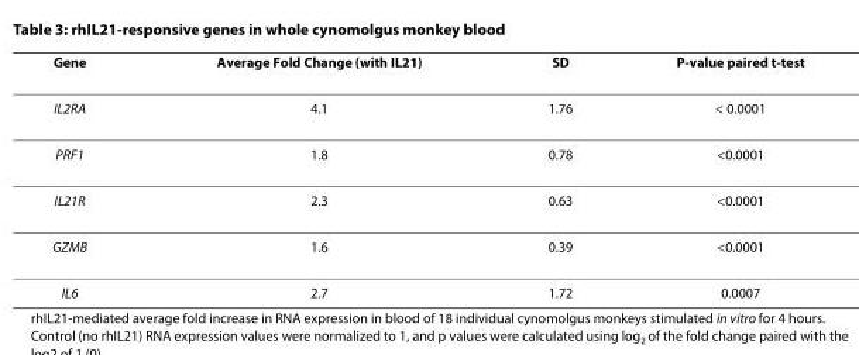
<table><thead><tr><td>Gene</td><td>Average Fold Change (with IL21)</td><td>SD</td><td>P-value paired t-test</td></tr></thead><tbody><tr><td>IL2RA</td><td>4.1</td><td>1.76</td><td>&lt; 0.0001</td></tr><tr><td>PRF1</td><td>1.8</td><td>0.78</td><td>&lt;0.0001</td></tr><tr><td>IL21R</td><td>2.3</td><td>0.63</td><td>&lt;0.0001</td></tr><tr><td>GZMB</td><td>1.6</td><td>0.39</td><td>&lt;0.0001</td></tr><tr><td>IL6</td><td>2.7</td><td>1.72</td><td>0.0007</td></tr></tbody></table>